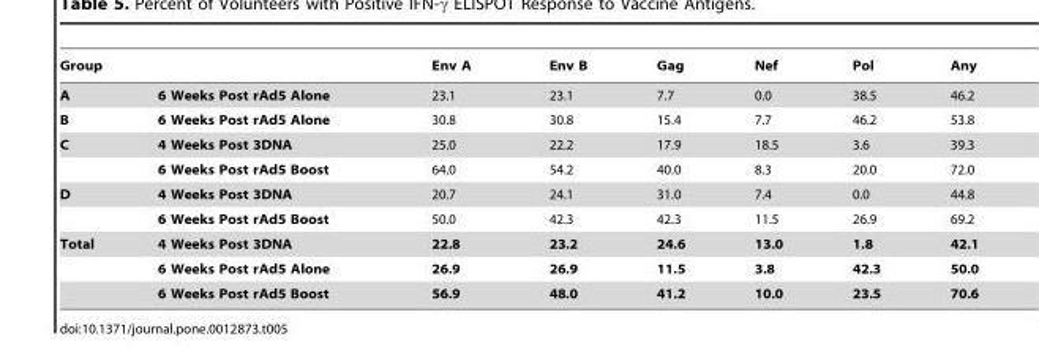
<table><thead><tr><td colspan="2">Group</td><td rowspan="2">Env A 23.1</td><td rowspan="2">Env B 23.1</td><td rowspan="2">Gag 7.7</td><td rowspan="2">Nef 0.0</td><td rowspan="2">Pol 38.5</td><td rowspan="2">Any 46.2</td></tr><tr><td>A</td><td>6 Weeks Post rAd5 Alone</td></tr></thead><tbody><tr><td>B</td><td>6 Weeks Post rAd5 Alone</td><td>30.8</td><td>30.8</td><td>15.4</td><td>7.7</td><td>46.2</td><td>53.8</td></tr><tr><td rowspan="2">C</td><td>4 Weeks Post 3DNA</td><td>25.0</td><td>22.2</td><td>17.9</td><td>18.5</td><td>3.6</td><td>39.3</td></tr><tr><td>6 Weeks Post rAd5 Boost</td><td>64.0</td><td>54.2</td><td>40.0</td><td>8.3</td><td>20.0</td><td>72.0</td></tr><tr><td rowspan="2">D</td><td>4 Weeks Post 3DNA</td><td>20.7</td><td>24.1</td><td>31.0</td><td>7.4</td><td>0.0</td><td>44.8</td></tr><tr><td>6 Weeks Post rAd5 Boost</td><td>50.0</td><td>42.3</td><td>42.3</td><td>11.5</td><td>26.9</td><td>69.2</td></tr><tr><td rowspan="3">Total</td><td>4 Weeks Post 3DNA</td><td>22.8</td><td>23.2</td><td>24.6</td><td>13.0</td><td>1.8</td><td>42.1</td></tr><tr><td>6 Weeks Post rAd5 Alone</td><td>26.9</td><td>26.9</td><td>11.5</td><td>3.8</td><td>42.3</td><td>50.0</td></tr><tr><td>6 Weeks Post rAd5 Boost</td><td>56.9</td><td>48.0</td><td>41.2</td><td>10.0</td><td>23.5</td><td>70.6</td></tr></tbody></table>